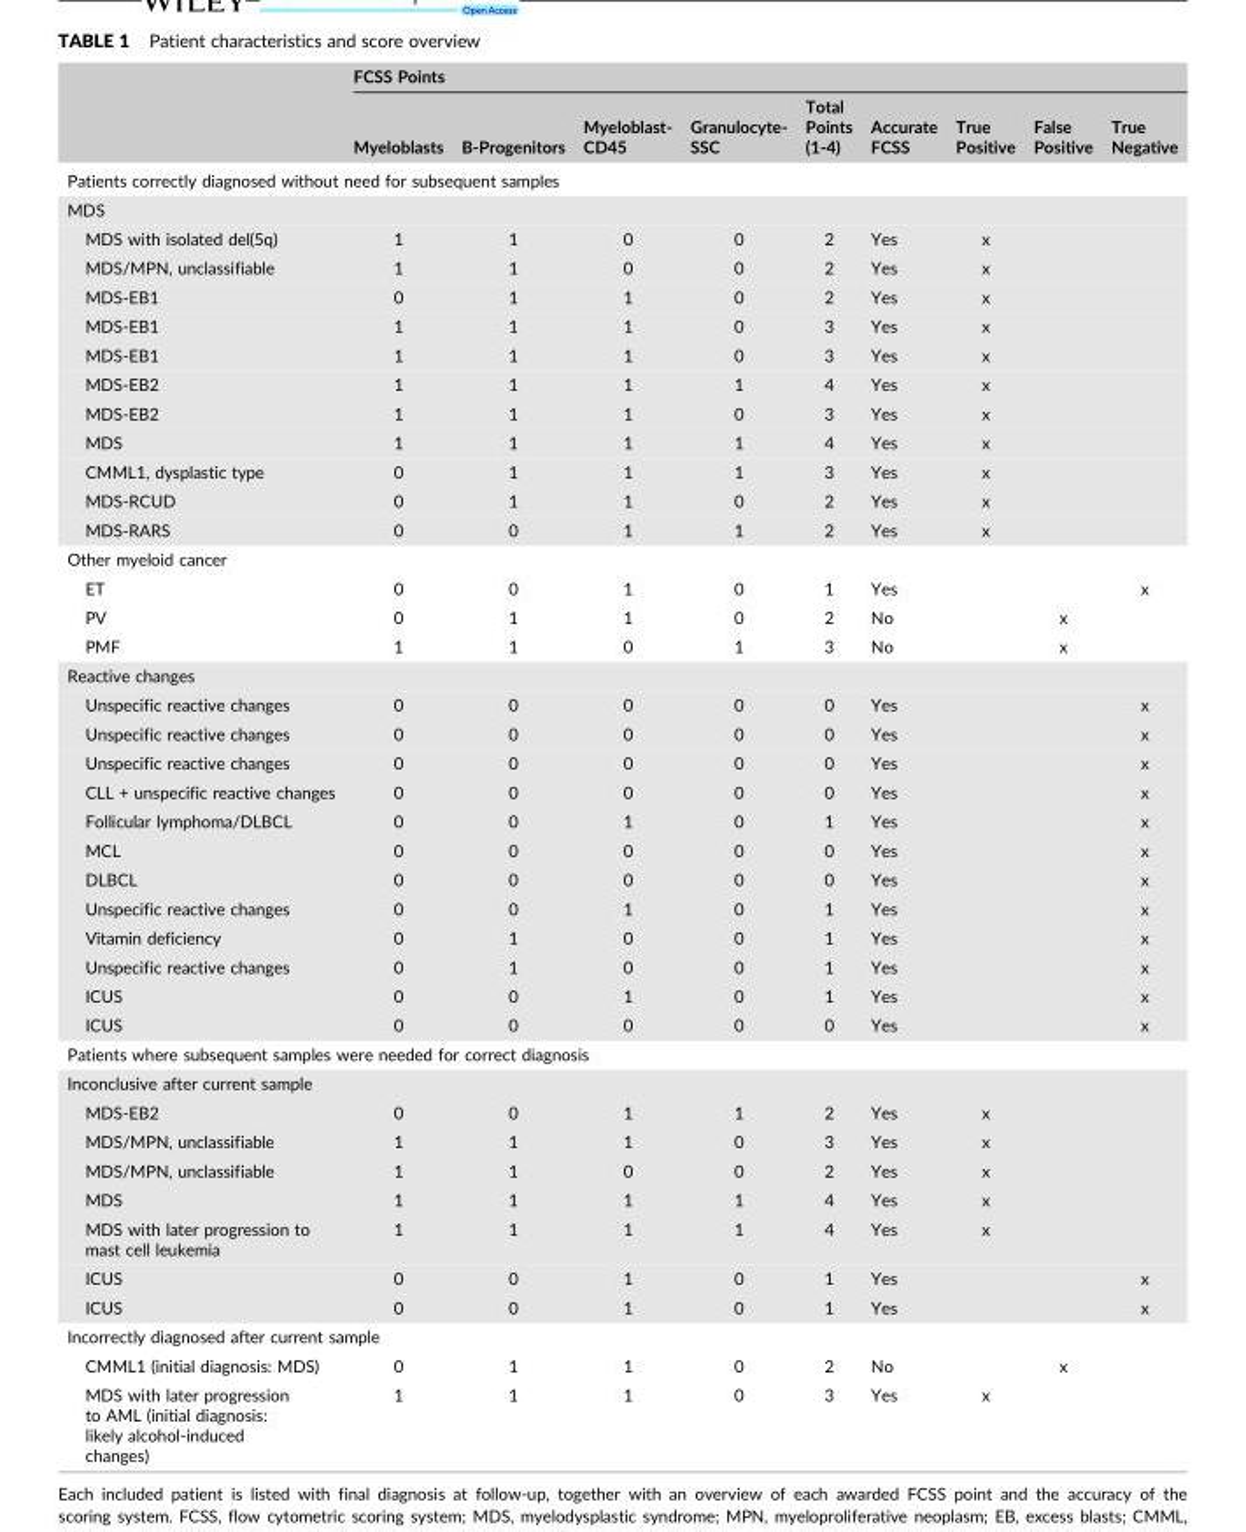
<table><thead><tr><td rowspan="2"></td><td colspan="9">FCSS Points</td></tr><tr><td>Myeloblasts</td><td>B‐Progenitors</td><td>Myeloblast‐ CD45</td><td>Granulocyte‐ SSC</td><td>Total Points (1‐4)</td><td>Accurate FCSS</td><td>True Positive</td><td>False Positive</td><td>True Negative</td></tr></thead><tbody><tr><td colspan="10">Patients correctly diagnosed without need for subsequent samples</td></tr><tr><td colspan="10">MDS</td></tr><tr><td>MDS with isolated del(5q)</td><td>1</td><td>1</td><td>0</td><td>0</td><td>2</td><td>Yes</td><td>x</td><td></td><td></td></tr><tr><td>MDS/MPN, unclassifiable</td><td>1</td><td>1</td><td>0</td><td>0</td><td>2</td><td>Yes</td><td>x</td><td></td><td></td></tr><tr><td>MDS‐EB1</td><td>0</td><td>1</td><td>1</td><td>0</td><td>2</td><td>Yes</td><td>x</td><td></td><td></td></tr><tr><td>MDS‐EB1</td><td>1</td><td>1</td><td>1</td><td>0</td><td>3</td><td>Yes</td><td>x</td><td></td><td></td></tr><tr><td>MDS‐EB1</td><td>1</td><td>1</td><td>1</td><td>0</td><td>3</td><td>Yes</td><td>x</td><td></td><td></td></tr><tr><td>MDS‐EB2</td><td>1</td><td>1</td><td>1</td><td>1</td><td>4</td><td>Yes</td><td>x</td><td></td><td></td></tr><tr><td>MDS‐EB2</td><td>1</td><td>1</td><td>1</td><td>0</td><td>3</td><td>Yes</td><td>x</td><td></td><td></td></tr><tr><td>MDS</td><td>1</td><td>1</td><td>1</td><td>1</td><td>4</td><td>Yes</td><td>x</td><td></td><td></td></tr><tr><td>CMML1, dysplastic type</td><td>0</td><td>1</td><td>1</td><td>1</td><td>3</td><td>Yes</td><td>x</td><td></td><td></td></tr><tr><td>MDS‐RCUD</td><td>0</td><td>1</td><td>1</td><td>0</td><td>2</td><td>Yes</td><td>x</td><td></td><td></td></tr><tr><td>MDS‐RARS</td><td>0</td><td>0</td><td>1</td><td>1</td><td>2</td><td>Yes</td><td>x</td><td></td><td></td></tr><tr><td colspan="10">Other myeloid cancer</td></tr><tr><td>ET</td><td>0</td><td>0</td><td>1</td><td>0</td><td>1</td><td>Yes</td><td></td><td></td><td>x</td></tr><tr><td>PV</td><td>0</td><td>1</td><td>1</td><td>0</td><td>2</td><td>No</td><td></td><td>x</td><td></td></tr><tr><td>PMF</td><td>1</td><td>1</td><td>0</td><td>1</td><td>3</td><td>No</td><td></td><td>x</td><td></td></tr><tr><td colspan="10">Reactive changes</td></tr><tr><td>Unspecific reactive changes</td><td>0</td><td>0</td><td>0</td><td>0</td><td>0</td><td>Yes</td><td></td><td></td><td>x</td></tr><tr><td>Unspecific reactive changes</td><td>0</td><td>0</td><td>0</td><td>0</td><td>0</td><td>Yes</td><td></td><td></td><td>x</td></tr><tr><td>Unspecific reactive changes</td><td>0</td><td>0</td><td>0</td><td>0</td><td>0</td><td>Yes</td><td></td><td></td><td>x</td></tr><tr><td>CLL + unspecific reactive changes</td><td>0</td><td>0</td><td>0</td><td>0</td><td>0</td><td>Yes</td><td></td><td></td><td>x</td></tr><tr><td>Follicular lymphoma/DLBCL</td><td>0</td><td>0</td><td>1</td><td>0</td><td>1</td><td>Yes</td><td></td><td></td><td>x</td></tr><tr><td>MCL</td><td>0</td><td>0</td><td>0</td><td>0</td><td>0</td><td>Yes</td><td></td><td></td><td>x</td></tr><tr><td>DLBCL</td><td>0</td><td>0</td><td>0</td><td>0</td><td>0</td><td>Yes</td><td></td><td></td><td>x</td></tr><tr><td>Unspecific reactive changes</td><td>0</td><td>0</td><td>1</td><td>0</td><td>1</td><td>Yes</td><td></td><td></td><td>x</td></tr><tr><td>Vitamin deficiency</td><td>0</td><td>1</td><td>0</td><td>0</td><td>1</td><td>Yes</td><td></td><td></td><td>x</td></tr><tr><td>Unspecific reactive changes</td><td>0</td><td>1</td><td>0</td><td>0</td><td>1</td><td>Yes</td><td></td><td></td><td>x</td></tr><tr><td>ICUS</td><td>0</td><td>0</td><td>1</td><td>0</td><td>1</td><td>Yes</td><td></td><td></td><td>x</td></tr><tr><td>ICUS</td><td>0</td><td>0</td><td>0</td><td>0</td><td>0</td><td>Yes</td><td></td><td></td><td>x</td></tr><tr><td colspan="10">Patients where subsequent samples were needed for correct diagnosis</td></tr><tr><td colspan="10">Inconclusive after current sample</td></tr><tr><td>MDS‐EB2</td><td>0</td><td>0</td><td>1</td><td>1</td><td>2</td><td>Yes</td><td>x</td><td></td><td></td></tr><tr><td>MDS/MPN, unclassifiable</td><td>1</td><td>1</td><td>1</td><td>0</td><td>3</td><td>Yes</td><td>x</td><td></td><td></td></tr><tr><td>MDS/MPN, unclassifiable</td><td>1</td><td>1</td><td>0</td><td>0</td><td>2</td><td>Yes</td><td>x</td><td></td><td></td></tr><tr><td>MDS</td><td>1</td><td>1</td><td>1</td><td>1</td><td>4</td><td>Yes</td><td>x</td><td></td><td></td></tr><tr><td>MDS with later progression to mast cell leukemia</td><td>1</td><td>1</td><td>1</td><td>1</td><td>4</td><td>Yes</td><td>x</td><td></td><td></td></tr><tr><td>ICUS</td><td>0</td><td>0</td><td>1</td><td>0</td><td>1</td><td>Yes</td><td></td><td></td><td>x</td></tr><tr><td>ICUS</td><td>0</td><td>0</td><td>1</td><td>0</td><td>1</td><td>Yes</td><td></td><td></td><td>x</td></tr><tr><td colspan="10">Incorrectly diagnosed after current sample</td></tr><tr><td>CMML1 (initial diagnosis: MDS)</td><td>0</td><td>1</td><td>1</td><td>0</td><td>2</td><td>No</td><td></td><td>x</td><td></td></tr><tr><td>MDS with later progression to AML (initial diagnosis: likely alcohol‐induced changes)</td><td>1</td><td>1</td><td>1</td><td>0</td><td>3</td><td>Yes</td><td>x</td><td></td><td></td></tr></tbody></table>